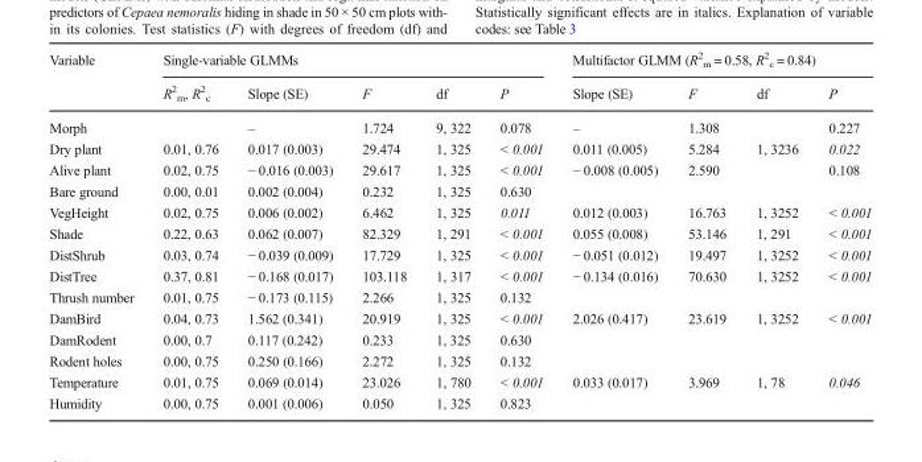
<table><thead><tr><td rowspan="2">Variable</td><td colspan="5">Single-variable GLMMs</td><td colspan="4">Multifactor GLMM (R<sup>2</sup> <sub>m</sub> = 0.58, R<sup>2</sup> <sub>c</sub> = 0.84)</td></tr><tr><td>R<sup>2</sup> <sub>m</sub>, R<sup>2</sup> <sub>c</sub></td><td>Slope (SE)</td><td>F</td><td>df</td><td>P</td><td>Slope (SE)</td><td>F</td><td>df</td><td>P</td></tr></thead><tbody><tr><td>Morph</td><td></td><td>–</td><td>1.724</td><td>9, 322</td><td>0.078</td><td>–</td><td>1.308</td><td></td><td>0.227</td></tr><tr><td>Dry plant</td><td>0.01, 0.76</td><td>0.017 (0.003)</td><td>29.474</td><td>1, 325</td><td>&lt; 0.001</td><td>0.011 (0.005)</td><td>5.284</td><td>1, 3236</td><td>0.022</td></tr><tr><td>Alive plant</td><td>0.02, 0.75</td><td>− 0.016 (0.003)</td><td>29.617</td><td>1, 325</td><td>&lt; 0.001</td><td>− 0.008 (0.005)</td><td>2.590</td><td></td><td>0.108</td></tr><tr><td>Bare ground</td><td>0.00, 0.01</td><td>0.002 (0.004)</td><td>0.232</td><td>1, 325</td><td>0.630</td><td></td><td></td><td></td><td></td></tr><tr><td>VegHeight</td><td>0.02, 0.75</td><td>0.006 (0.002)</td><td>6.462</td><td>1, 325</td><td>0.011</td><td>0.012 (0.003)</td><td>16.763</td><td>1, 3252</td><td>&lt; 0.001</td></tr><tr><td>Shade</td><td>0.22, 0.63</td><td>0.062 (0.007)</td><td>82.329</td><td>1, 291</td><td>&lt; 0.001</td><td>0.055 (0.008)</td><td>53.146</td><td>1, 291</td><td>&lt; 0.001</td></tr><tr><td>DistShrub</td><td>0.03, 0.74</td><td>− 0.039 (0.009)</td><td>17.729</td><td>1, 325</td><td>&lt; 0.001</td><td>− 0.051 (0.012)</td><td>19.497</td><td>1, 3252</td><td>&lt; 0.001</td></tr><tr><td>DistTree</td><td>0.37, 0.81</td><td>− 0.168 (0.017)</td><td>103.118</td><td>1, 317</td><td>&lt; 0.001</td><td>− 0.134 (0.016)</td><td>70.630</td><td>1, 3252</td><td>&lt; 0.001</td></tr><tr><td>Thrush number</td><td>0.01, 0.75</td><td>− 0.173 (0.115)</td><td>2.266</td><td>1, 325</td><td>0.132</td><td></td><td></td><td></td><td></td></tr><tr><td>DamBird</td><td>0.04, 0.73</td><td>1.562 (0.341)</td><td>20.919</td><td>1, 325</td><td>&lt; 0.001</td><td>2.026 (0.417)</td><td>23.619</td><td>1, 3252</td><td>&lt; 0.001</td></tr><tr><td>DamRodent</td><td>0.00, 0.7</td><td>0.117 (0.242)</td><td>0.233</td><td>1, 325</td><td>0.630</td><td></td><td></td><td></td><td></td></tr><tr><td>Rodent holes</td><td>0.00, 0.75</td><td>0.250 (0.166)</td><td>2.272</td><td>1, 325</td><td>0.132</td><td></td><td></td><td></td><td></td></tr><tr><td>Temperature</td><td>0.01, 0.75</td><td>0.069 (0.014)</td><td>23.026</td><td>1, 780</td><td>&lt; 0.001</td><td>0.033 (0.017)</td><td>3.969</td><td>1, 78</td><td>0.046</td></tr><tr><td>Humidity</td><td>0.00, 0.75</td><td>0.001 (0.006)</td><td>0.050</td><td>1, 325</td><td>0.823</td><td></td><td></td><td></td><td></td></tr></tbody></table>